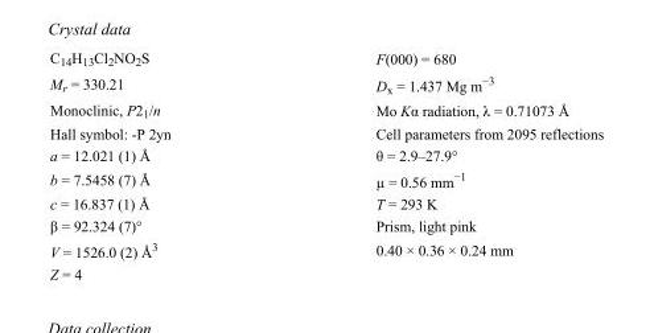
<table><tbody><tr><td>C<sub>14</sub>H<sub>13</sub>Cl<sub>2</sub>NO<sub>2</sub>S</td><td>F(000) = 680</td></tr><tr><td>M<sub>r</sub> = 330.21</td><td>D<sub>x</sub> = 1.437 Mg m<sup>−3</sup></td></tr><tr><td>Monoclinic, P2<sub>1</sub>/n</td><td>Mo Kα radiation, λ = 0.71073 Å</td></tr><tr><td>Hall symbol: -P 2yn</td><td>Cell parameters from 2095 reflections</td></tr><tr><td>a = 12.021 (1) Å</td><td>θ = 2.9–27.9°</td></tr><tr><td>b = 7.5458 (7) Å</td><td>µ = 0.56 mm<sup>−1</sup></td></tr><tr><td>c = 16.837 (1) Å</td><td>T = 293 K</td></tr><tr><td>β = 92.324 (7)°</td><td>Prism, light pink</td></tr><tr><td>V = 1526.0 (2) Å<sup>3</sup></td><td>0.40 × 0.36 × 0.24 mm</td></tr><tr><td>Z = 4</td><td></td></tr></tbody></table>